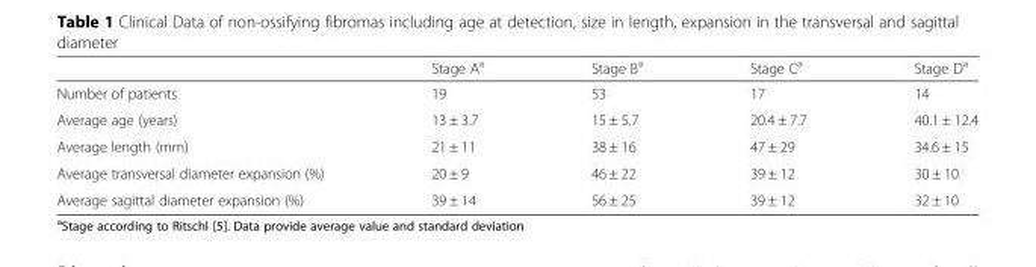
<table><thead><tr><td></td><td>Stage A<sup>a</sup></td><td>Stage B<sup>a</sup></td><td>Stage C<sup>a</sup></td><td>Stage D<sup>a</sup></td></tr></thead><tbody><tr><td>Number of patients</td><td>19</td><td>53</td><td>17</td><td>14</td></tr><tr><td>Average age (years)</td><td>13 ± 3.7</td><td>15 ± 5.7</td><td>20.4 ± 7.7</td><td>40.1 ± 12.4</td></tr><tr><td>Average length (mm)</td><td>21 ± 11</td><td>38 ± 16</td><td>47 ± 29</td><td>34.6 ± 15</td></tr><tr><td>Average transversal diameter expansion (%)</td><td>20 ± 9</td><td>46 ± 22</td><td>39 ± 12</td><td>30 ± 10</td></tr><tr><td>Average sagittal diameter expansion (%)</td><td>39 ± 14</td><td>56 ± 25</td><td>39 ± 12</td><td>32 ± 10</td></tr></tbody></table>